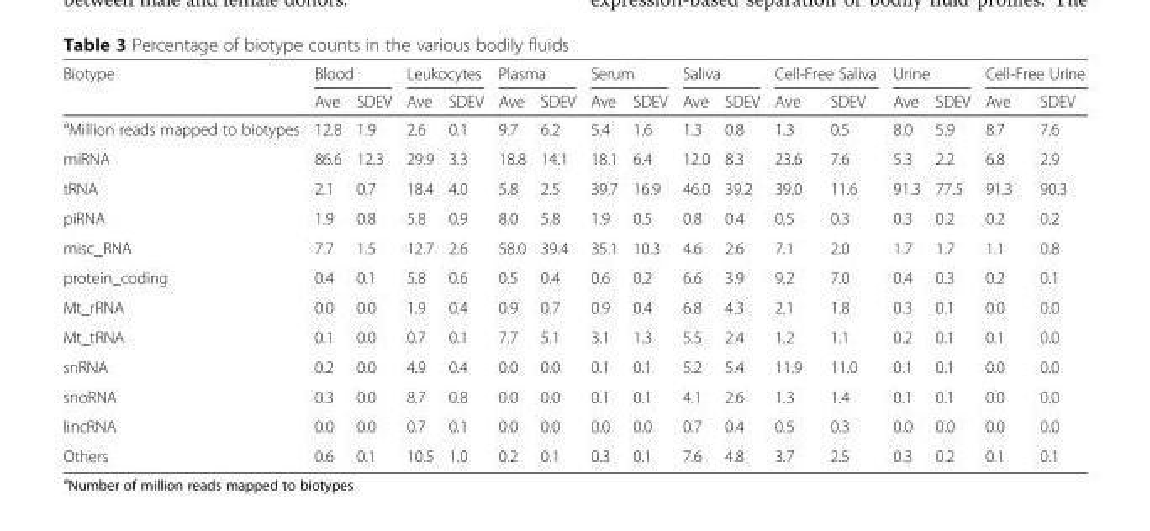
<table><thead><tr><td rowspan="2">Biotype</td><td colspan="2">Blood</td><td colspan="2">Leukocytes</td><td colspan="2">Plasma</td><td colspan="2">Serum</td><td colspan="2">Saliva</td><td colspan="2">Cell-Free Saliva</td><td colspan="2">Urine</td><td colspan="2">Cell-Free Urine</td></tr><tr><td>Ave</td><td>SDEV</td><td>Ave</td><td>SDEV</td><td>Ave</td><td>SDEV</td><td>Ave</td><td>SDEV</td><td>Ave</td><td>SDEV</td><td>Ave</td><td>SDEV</td><td>Ave</td><td>SDEV</td><td>Ave</td><td>SDEV</td></tr></thead><tbody><tr><td><sup>a</sup>Million reads mapped to biotypes</td><td>12.8</td><td>1.9</td><td>2.6</td><td>0.1</td><td>9.7</td><td>6.2</td><td>5.4</td><td>1.6</td><td>1.3</td><td>0.8</td><td>1.3</td><td>0.5</td><td>8.0</td><td>5.9</td><td>8.7</td><td>7.6</td></tr><tr><td>miRNA</td><td>86.6</td><td>12.3</td><td>29.9</td><td>3.3</td><td>18.8</td><td>14.1</td><td>18.1</td><td>6.4</td><td>12.0</td><td>8.3</td><td>23.6</td><td>7.6</td><td>5.3</td><td>2.2</td><td>6.8</td><td>2.9</td></tr><tr><td>tRNA</td><td>2.1</td><td>0.7</td><td>18.4</td><td>4.0</td><td>5.8</td><td>2.5</td><td>39.7</td><td>16.9</td><td>46.0</td><td>39.2</td><td>39.0</td><td>11.6</td><td>91.3</td><td>77.5</td><td>91.3</td><td>90.3</td></tr><tr><td>piRNA</td><td>1.9</td><td>0.8</td><td>5.8</td><td>0.9</td><td>8.0</td><td>5.8</td><td>1.9</td><td>0.5</td><td>0.8</td><td>0.4</td><td>0.5</td><td>0.3</td><td>0.3</td><td>0.2</td><td>0.2</td><td>0.2</td></tr><tr><td>misc_RNA</td><td>7.7</td><td>1.5</td><td>12.7</td><td>2.6</td><td>58.0</td><td>39.4</td><td>35.1</td><td>10.3</td><td>4.6</td><td>2.6</td><td>7.1</td><td>2.0</td><td>1.7</td><td>1.7</td><td>1.1</td><td>0.8</td></tr><tr><td>protein_coding</td><td>0.4</td><td>0.1</td><td>5.8</td><td>0.6</td><td>0.5</td><td>0.4</td><td>0.6</td><td>0.2</td><td>6.6</td><td>3.9</td><td>9.2</td><td>7.0</td><td>0.4</td><td>0.3</td><td>0.2</td><td>0.1</td></tr><tr><td>Mt_rRNA</td><td>0.0</td><td>0.0</td><td>1.9</td><td>0.4</td><td>0.9</td><td>0.7</td><td>0.9</td><td>0.4</td><td>6.8</td><td>4.3</td><td>2.1</td><td>1.8</td><td>0.3</td><td>0.1</td><td>0.0</td><td>0.0</td></tr><tr><td>Mt_tRNA</td><td>0.1</td><td>0.0</td><td>0.7</td><td>0.1</td><td>7.7</td><td>5.1</td><td>3.1</td><td>1.3</td><td>5.5</td><td>2.4</td><td>1.2</td><td>1.1</td><td>0.2</td><td>0.1</td><td>0.1</td><td>0.0</td></tr><tr><td>snRNA</td><td>0.2</td><td>0.0</td><td>4.9</td><td>0.4</td><td>0.0</td><td>0.0</td><td>0.1</td><td>0.1</td><td>5.2</td><td>5.4</td><td>11.9</td><td>11.0</td><td>0.1</td><td>0.1</td><td>0.0</td><td>0.0</td></tr><tr><td>snoRNA</td><td>0.3</td><td>0.0</td><td>8.7</td><td>0.8</td><td>0.0</td><td>0.0</td><td>0.1</td><td>0.1</td><td>4.1</td><td>2.6</td><td>1.3</td><td>1.4</td><td>0.1</td><td>0.1</td><td>0.0</td><td>0.0</td></tr><tr><td>lincRNA</td><td>0.0</td><td>0.0</td><td>0.7</td><td>0.1</td><td>0.0</td><td>0.0</td><td>0.0</td><td>0.0</td><td>0.7</td><td>0.4</td><td>0.5</td><td>0.3</td><td>0.0</td><td>0.0</td><td>0.0</td><td>0.0</td></tr><tr><td>Others</td><td>0.6</td><td>0.1</td><td>10.5</td><td>1.0</td><td>0.2</td><td>0.1</td><td>0.3</td><td>0.1</td><td>7.6</td><td>4.8</td><td>3.7</td><td>2.5</td><td>0.3</td><td>0.2</td><td>0.1</td><td>0.1</td></tr></tbody></table>